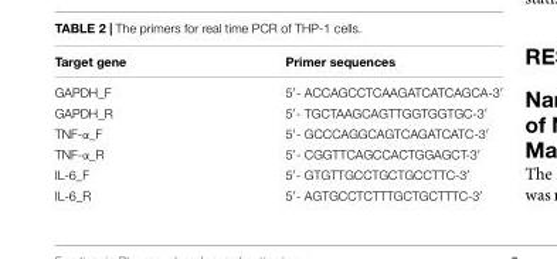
<table><thead><tr><td>Target gene</td><td>Primer sequences</td></tr></thead><tbody><tr><td>GAPDH_F</td><td>5′- ACCAGCCTCAAGATCATCAGCA-3′</td></tr><tr><td>GAPDH_R</td><td>5′- TGCTAAGCAGTTGGTGGTGC-3′</td></tr><tr><td>TNF-α_F</td><td>5′- GCCCAGGCAGTCAGATCATC-3′</td></tr><tr><td>TNF-α_R</td><td>5′- CGGTTCAGCCACTGGAGCT-3′</td></tr><tr><td>IL-6_F</td><td>5′- GTGTTGCCTGCTGCCTTC-3′</td></tr><tr><td>IL-6_R</td><td>5′- AGTGCCTCTTTGCTGCTTTC-3′</td></tr></tbody></table>